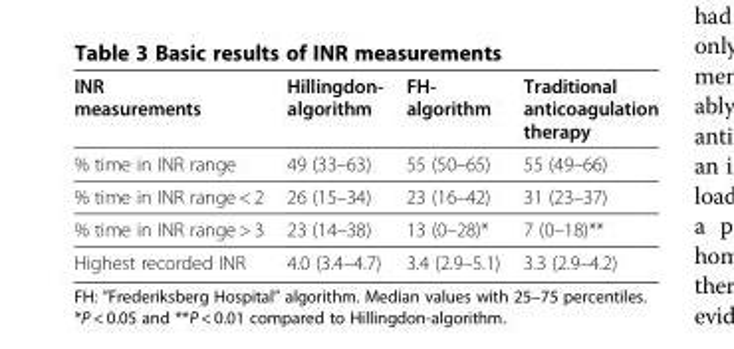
<table><thead><tr><td>INR measurements</td><td>Hillingdon- algorithm</td><td>FH- algorithm</td><td>Traditional anticoagulation therapy</td></tr></thead><tbody><tr><td>% time in INR range</td><td>49 (33–63)</td><td>55 (50–65)</td><td>55 (49–66)</td></tr><tr><td>% time in INR range &lt; 2</td><td>26 (15–34)</td><td>23 (16–42)</td><td>31 (23–37)</td></tr><tr><td>% time in INR range &gt; 3</td><td>23 (14–38)</td><td>13 (0–28)*</td><td>7 (0–18)**</td></tr><tr><td>Highest recorded INR</td><td>4.0 (3.4–4.7)</td><td>3.4 (2.9–5.1)</td><td>3.3 (2.9–4.2)</td></tr></tbody></table>